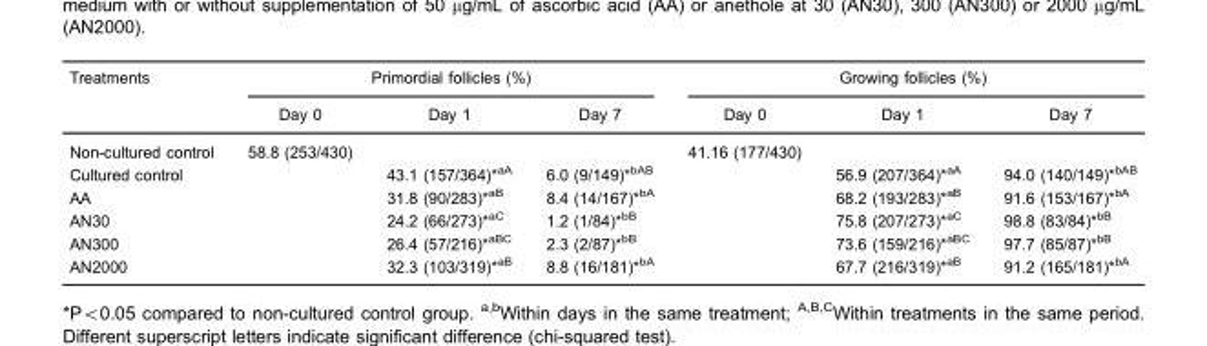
<table><thead><tr><td rowspan="2">Treatments</td><td colspan="3">Primordial follicles (%)</td><td colspan="3">Growing follicles (%)</td></tr><tr><td>Day 0</td><td>Day 1</td><td>Day 7</td><td>Day 0</td><td>Day 1</td><td>Day 7</td></tr></thead><tbody><tr><td>Non-cultured control</td><td>58.8 (253/430)</td><td></td><td></td><td>41.16 (177/430)</td><td></td><td></td></tr><tr><td>Cultured control</td><td></td><td>43.1 (157/364)*<sup>aA</sup></td><td>6.0 (9/149)*<sup>bAB</sup></td><td></td><td>56.9 (207/364)*<sup>aA</sup></td><td>94.0 (140/149)*<sup>bAB</sup></td></tr><tr><td>AA</td><td></td><td>31.8 (90/283)*<sup>aB</sup></td><td>8.4 (14/167)*<sup>bA</sup></td><td></td><td>68.2 (193/283)*<sup>aB</sup></td><td>91.6 (153/167)*<sup>bA</sup></td></tr><tr><td>AN30</td><td></td><td>24.2 (66/273)*<sup>aC</sup></td><td>1.2 (1/84)*<sup>bB</sup></td><td></td><td>75.8 (207/273)*<sup>aC</sup></td><td>98.8 (83/84)*<sup>bB</sup></td></tr><tr><td>AN300</td><td></td><td>26.4 (57/216)*<sup>aBC</sup></td><td>2.3 (2/87)*<sup>bB</sup></td><td></td><td>73.6 (159/216)*<sup>aBC</sup></td><td>97.7 (85/87)*<sup>bB</sup></td></tr><tr><td>AN2000</td><td></td><td>32.3 (103/319)*<sup>aB</sup></td><td>8.8 (16/181)*<sup>bA</sup></td><td></td><td>67.7 (216/319)*<sup>aB</sup></td><td>91.2 (165/181)*<sup>bA</sup></td></tr></tbody></table>